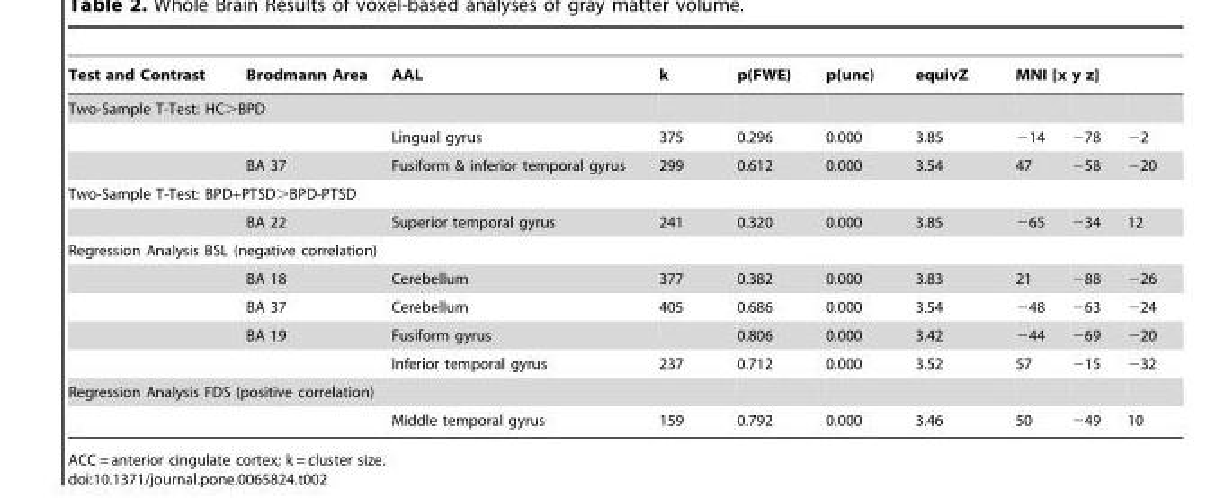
<table><thead><tr><td>Test and Contrast</td><td>Brodmann Area</td><td>AAL</td><td rowspan="2">k</td><td rowspan="2">p(FWE)</td><td rowspan="2">p(unc)</td><td rowspan="2">equivZ</td><td colspan="3">MNI [x y z]</td></tr><tr><td colspan="3">Two-Sample T-Test: HC&gt;BPD</td><td></td><td></td><td></td></tr></thead><tbody><tr><td></td><td></td><td>Lingual gyrus</td><td>375</td><td>0.296</td><td>0.000</td><td>3.85</td><td>−14</td><td>−78</td><td>−2</td></tr><tr><td></td><td>BA 37</td><td>Fusiform &amp; inferior temporal gyrus</td><td>299</td><td>0.612</td><td>0.000</td><td>3.54</td><td>47</td><td>−58</td><td>−20</td></tr><tr><td colspan="10">Two-Sample T-Test: BPD+PTSD&gt;BPD-PTSD</td></tr><tr><td></td><td>BA 22</td><td>Superior temporal gyrus</td><td>241</td><td>0.320</td><td>0.000</td><td>3.85</td><td>−65</td><td>−34</td><td>12</td></tr><tr><td colspan="10">Regression Analysis BSL (negative correlation)</td></tr><tr><td></td><td>BA 18</td><td>Cerebellum</td><td>377</td><td>0.382</td><td>0.000</td><td>3.83</td><td>21</td><td>−88</td><td>−26</td></tr><tr><td></td><td>BA 37</td><td>Cerebellum</td><td>405</td><td>0.686</td><td>0.000</td><td>3.54</td><td>−48</td><td>−63</td><td>−24</td></tr><tr><td></td><td>BA 19</td><td>Fusiform gyrus</td><td></td><td>0.806</td><td>0.000</td><td>3.42</td><td>−44</td><td>−69</td><td>−20</td></tr><tr><td></td><td></td><td>Inferior temporal gyrus</td><td>237</td><td>0.712</td><td>0.000</td><td>3.52</td><td>57</td><td>−15</td><td>−32</td></tr><tr><td colspan="10">Regression Analysis FDS (positive correlation)</td></tr><tr><td></td><td></td><td>Middle temporal gyrus</td><td>159</td><td>0.792</td><td>0.000</td><td>3.46</td><td>50</td><td>−49</td><td>10</td></tr></tbody></table>